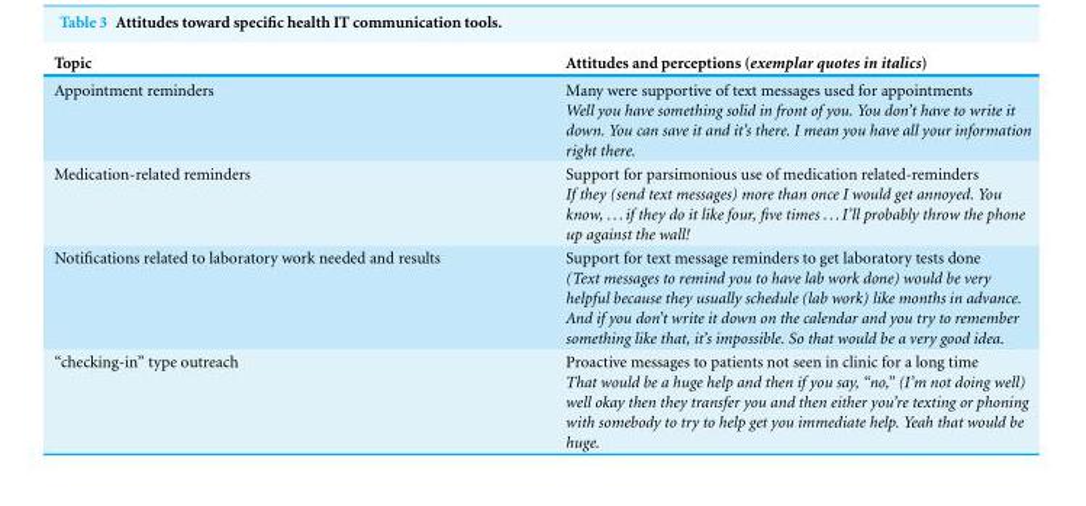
<table><thead><tr><td>Topic</td><td>Attitudes and perceptions (exemplar quotes in italics)</td></tr></thead><tbody><tr><td>Appointment reminders</td><td>Many were supportive of text messages used for appointments Well you have something solid in front of you. You don’t have to write it down. You can save it and it’s there. I mean you have all your information right there.</td></tr><tr><td>Medication-related reminders</td><td>Support for parsimonious use of medication related-reminders If they (send text messages) more than once I would get annoyed. You know, ...if they do it like four, five times ...I’ll probably throw the phone up against the wall!</td></tr><tr><td>Notifications related to laboratory work needed and results</td><td>Support for text message reminders to get laboratory tests done (Text messages to remind you to have lab work done) would be very helpful because they usually schedule (lab work) like months in advance. And if you don’t write it down on the calendar and you try to remember something like that, it’s impossible. So that would be a very good idea.</td></tr><tr><td>“checking-in” type outreach</td><td>Proactive messages to patients not seen in clinic for a long time That would be a huge help and then if you say, “no,” (I’m not doing well) well okay then they transfer you and then either you’re texting or phoning with somebody to try to help get you immediate help. Yeah that would be huge.</td></tr></tbody></table>